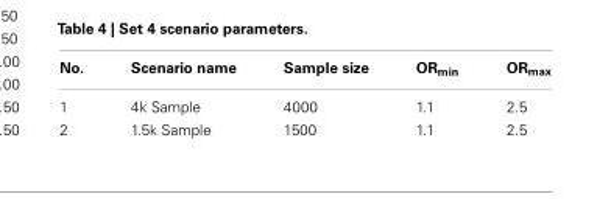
<table><thead><tr><td>No.</td><td>Scenario name</td><td>Sample size</td><td>OR<sub>min</sub></td><td>OR<sub>max</sub></td></tr></thead><tbody><tr><td>1</td><td>4k Sample</td><td>4000</td><td>1.1</td><td>2.5</td></tr><tr><td>2</td><td>1.5k Sample</td><td>1500</td><td>1.1</td><td>2.5</td></tr></tbody></table>